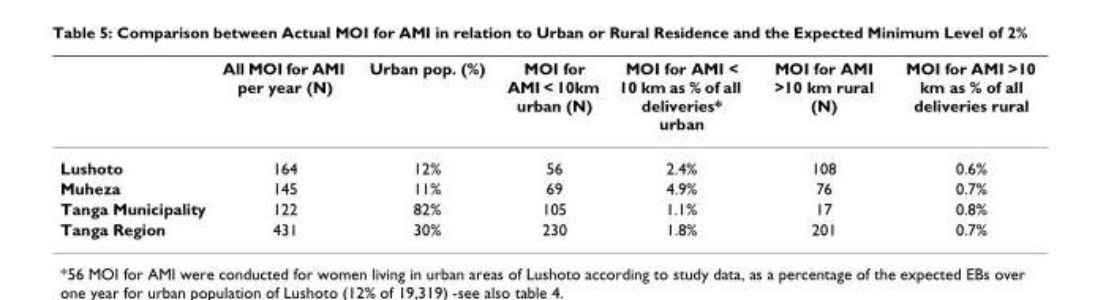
<table><thead><tr><td></td><td>All MOI for AMI per year (N)</td><td>Urban pop. (%)</td><td>MOI for AMI &lt; 10km urban (N)</td><td>MOI for AMI &lt; 10 km as % of all deliveries* urban</td><td>MOI for AMI &gt;10 km rural (N)</td><td>MOI for AMI &gt;10 km as % of all deliveries rural</td></tr></thead><tbody><tr><td>Lushoto</td><td>164</td><td>12%</td><td>56</td><td>2.4%</td><td>108</td><td>0.6%</td></tr><tr><td>Muheza</td><td>145</td><td>11%</td><td>69</td><td>4.9%</td><td>76</td><td>0.7%</td></tr><tr><td>Tanga Municipality</td><td>122</td><td>82%</td><td>105</td><td>1.1%</td><td>17</td><td>0.8%</td></tr><tr><td>Tanga Region</td><td>431</td><td>30%</td><td>230</td><td>1.8%</td><td>201</td><td>0.7%</td></tr></tbody></table>